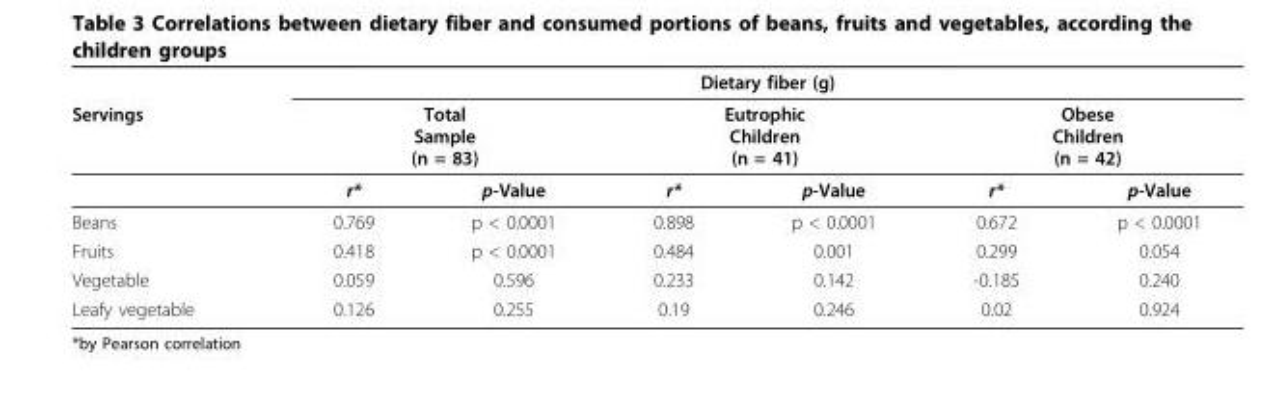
<table><thead><tr><td rowspan="3">Servings</td><td colspan="6">Dietary fiber (g)</td></tr><tr><td colspan="2">Total Sample (n = 83)</td><td colspan="2">Eutrophic Children (n = 41)</td><td colspan="2">Obese Children (n = 42)</td></tr><tr><td>r*</td><td>p-Value</td><td>r*</td><td>p-Value</td><td>r*</td><td>p-Value</td></tr></thead><tbody><tr><td>Beans</td><td>0.769</td><td>p &lt; 0.0001</td><td>0.898</td><td>p &lt; 0.0001</td><td>0.672</td><td>p &lt; 0.0001</td></tr><tr><td>Fruits</td><td>0.418</td><td>p &lt; 0.0001</td><td>0.484</td><td>0.001</td><td>0.299</td><td>0.054</td></tr><tr><td>Vegetable</td><td>0.059</td><td>0.596</td><td>0.233</td><td>0.142</td><td>-0.185</td><td>0.240</td></tr><tr><td>Leafy vegetable</td><td>0.126</td><td>0.255</td><td>0.19</td><td>0.246</td><td>0.02</td><td>0.924</td></tr></tbody></table>